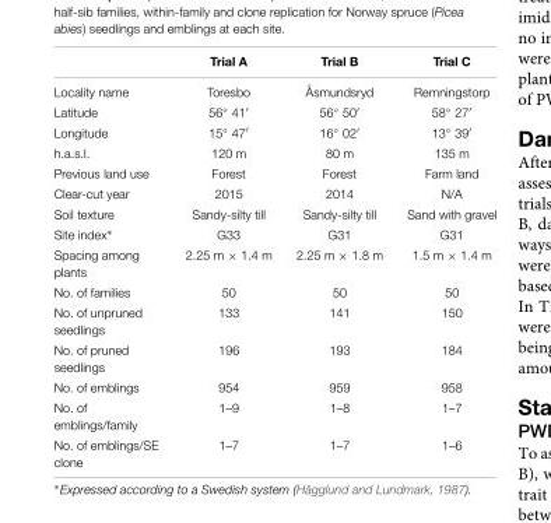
<table><thead><tr><td></td><td>Trial A</td><td>Trial B</td><td>Trial C</td></tr></thead><tbody><tr><td>Locality name</td><td>Toresbo</td><td>Åsmundsryd</td><td>Remningstorp</td></tr><tr><td>Latitude</td><td>56◦ 41′</td><td>56◦ 50′</td><td>58◦ 27′</td></tr><tr><td>Longitude</td><td>15◦ 47′</td><td>16◦ 02′</td><td>13◦ 39′</td></tr><tr><td>h.a.s.l.</td><td>120 m</td><td>80 m</td><td>135 m</td></tr><tr><td>Previous land use</td><td>Forest</td><td>Forest</td><td>Farm land</td></tr><tr><td>Clear-cut year</td><td>2015</td><td>2014</td><td>N/A</td></tr><tr><td>Soil texture</td><td>Sandy-silty till</td><td>Sandy-silty till</td><td>Sand with gravel</td></tr><tr><td>Site index∗</td><td>G33</td><td>G31</td><td>G31</td></tr><tr><td>Spacing among plants</td><td>2.25 m × 1.4 m</td><td>2.25 m × 1.8 m</td><td>1.5 m × 1.4 m</td></tr><tr><td>No. of families</td><td>50</td><td>50</td><td>50</td></tr><tr><td>No. of unpruned seedlings</td><td>133</td><td>141</td><td>150</td></tr><tr><td>No. of pruned seedlings</td><td>196</td><td>193</td><td>184</td></tr><tr><td>No. of emblings</td><td>954</td><td>959</td><td>958</td></tr><tr><td>No. of emblings/family</td><td>1–9</td><td>1–8</td><td>1–7</td></tr><tr><td>No. of emblings/SE clone</td><td>1–7</td><td>1–7</td><td>1–6</td></tr></tbody></table>